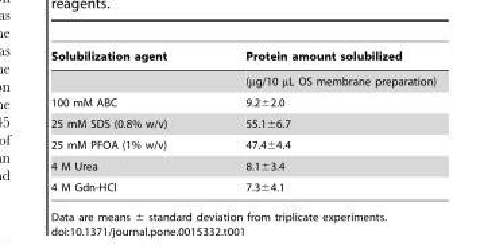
<table><thead><tr><td>Solubilization agent</td><td>Protein amount solubilized</td></tr></thead><tbody><tr><td></td><td>(µg/10 µL OS membrane preparation)</td></tr><tr><td>100 mM ABC</td><td>9.2±2.0</td></tr><tr><td>25 mM SDS (0.8% w/v)</td><td>55.1±6.7</td></tr><tr><td>25 mM PFOA (1% w/v)</td><td>47.4±4.4</td></tr><tr><td>4 M Urea</td><td>8.1±3.4</td></tr><tr><td>4 M Gdn-HCl</td><td>7.3±4.1</td></tr></tbody></table>